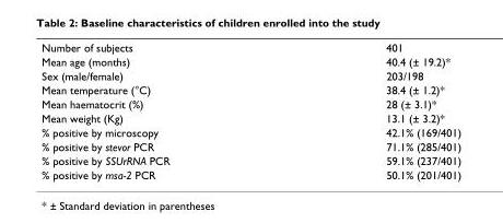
<table><tbody><tr><td>Number of subjects</td><td>401</td></tr><tr><td>Mean age (months)</td><td>40.4 (± 19.2)*</td></tr><tr><td>Sex (male/female)</td><td>203/198</td></tr><tr><td>Mean temperature (°C)</td><td>38.4 (± 1.2)*</td></tr><tr><td>Mean haematocrit (%)</td><td>28 (± 3.1)*</td></tr><tr><td>Mean weight (Kg)</td><td>13.1 (± 3.2)*</td></tr><tr><td>% positive by microscopy</td><td>42.1% (169/401)</td></tr><tr><td>% positive by stevor PCR</td><td>71.1% (285/401)</td></tr><tr><td>% positive by SSUrRNA PCR</td><td>59.1% (237/401)</td></tr><tr><td>% positive by msa-2 PCR</td><td>50.1% (201/401)</td></tr></tbody></table>